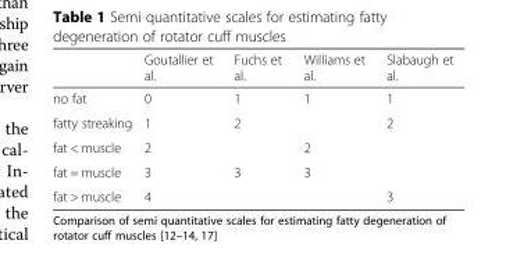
<table><thead><tr><td></td><td>Goutallier et al.</td><td>Fuchs et al.</td><td>Williams et al.</td><td>Slabaugh et al.</td></tr></thead><tbody><tr><td>no fat</td><td>0</td><td>1</td><td rowspan="2">1</td><td>1</td></tr><tr><td>fatty streaking</td><td>1</td><td rowspan="2">2</td><td rowspan="3">2</td></tr><tr><td>fat &lt; muscle</td><td>2</td><td>2</td></tr><tr><td>fat = muscle</td><td>3</td><td rowspan="2">3</td><td rowspan="2">3</td></tr><tr><td>fat &gt; muscle</td><td>4</td><td>3</td></tr></tbody></table>